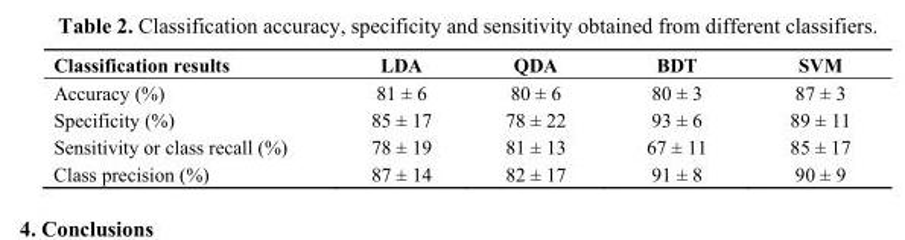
<table><thead><tr><td>Classification results</td><td>LDA</td><td>QDA</td><td>BDT</td><td>SVM</td></tr></thead><tbody><tr><td>Accuracy (%)</td><td>81 ± 6</td><td>80 ± 6</td><td>80 ± 3</td><td>87 ± 3</td></tr><tr><td>Specificity (%)</td><td>85 ± 17</td><td>78 ± 22</td><td>93 ± 6</td><td>89 ± 11</td></tr><tr><td>Sensitivity or class recall (%)</td><td>78 ± 19</td><td>81 ± 13</td><td>67 ± 11</td><td>85 ± 17</td></tr><tr><td>Class precision (%)</td><td>87 ± 14</td><td>82 ± 17</td><td>91 ± 8</td><td>90 ± 9</td></tr></tbody></table>